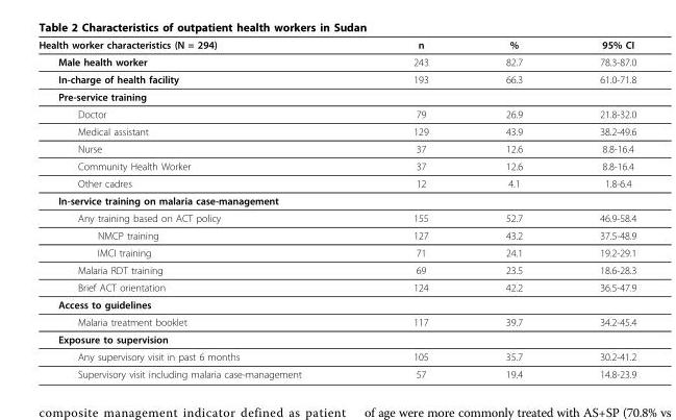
<table><thead><tr><td>Health worker characteristics (N = 294)</td><td>n</td><td>%</td><td>95% CI</td></tr></thead><tbody><tr><td>Male health worker</td><td>243</td><td>82.7</td><td>78.3-87.0</td></tr><tr><td>In-charge of health facility</td><td>193</td><td>66.3</td><td>61.0-71.8</td></tr><tr><td colspan="4">Pre-service training</td></tr><tr><td>Doctor</td><td>79</td><td>26.9</td><td>21.8-32.0</td></tr><tr><td>Medical assistant</td><td>129</td><td>43.9</td><td>38.2-49.6</td></tr><tr><td>Nurse</td><td>37</td><td>12.6</td><td>8.8-16.4</td></tr><tr><td>Community Health Worker</td><td>37</td><td>12.6</td><td>8.8-16.4</td></tr><tr><td>Other cadres</td><td>12</td><td>4.1</td><td>1.8-6.4</td></tr><tr><td colspan="4">In-service training on malaria case-management</td></tr><tr><td>Any training based on ACT policy</td><td>155</td><td>52.7</td><td>46.9-58.4</td></tr><tr><td>NMCP training</td><td>127</td><td>43.2</td><td>37.5-48.9</td></tr><tr><td>IMCI training</td><td>71</td><td>24.1</td><td>19.2-29.1</td></tr><tr><td>Malaria RDT training</td><td>69</td><td>23.5</td><td>18.6-28.3</td></tr><tr><td>Brief ACT orientation</td><td>124</td><td>42.2</td><td>36.5-47.9</td></tr><tr><td colspan="4">Access to guidelines</td></tr><tr><td>Malaria treatment booklet</td><td>117</td><td>39.7</td><td>34.2-45.4</td></tr><tr><td colspan="4">Exposure to supervision</td></tr><tr><td>Any supervisory visit in past 6 months</td><td>105</td><td>35.7</td><td>30.2-41.2</td></tr><tr><td>Supervisory visit including malaria case-management</td><td>57</td><td>19.4</td><td>14.8-23.9</td></tr></tbody></table>